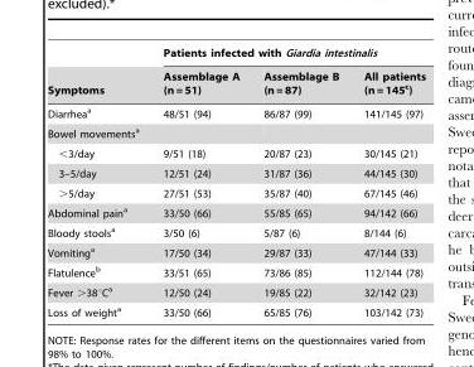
<table><thead><tr><td rowspan="2">Symptoms</td><td colspan="3">Patients infected with Giardia intestinalis</td></tr><tr><td>Assemblage A (n = 51)</td><td>Assemblage B (n = 87)</td><td>All patients (n = 145<sup>c</sup>)</td></tr></thead><tbody><tr><td>Diarrhea<sup>a</sup></td><td>48/51 (94)</td><td>86/87 (99)</td><td>141/145 (97)</td></tr><tr><td colspan="4">Bowel movements<sup>a</sup></td></tr><tr><td>&lt;3/day</td><td>9/51 (18)</td><td>20/87 (23)</td><td>30/145 (21)</td></tr><tr><td>3–5/day</td><td>12/51 (24)</td><td>31/87 (36)</td><td>44/145 (30)</td></tr><tr><td>&gt;5/day</td><td>27/51 (53)</td><td>35/87 (40)</td><td>67/145 (46)</td></tr><tr><td>Abdominal pain<sup>a</sup></td><td>33/50 (66)</td><td>55/85 (65)</td><td>94/142 (66)</td></tr><tr><td>Bloody stools<sup>a</sup></td><td>3/50 (6)</td><td>5/87 (6)</td><td>8/144 (6)</td></tr><tr><td>Vomiting<sup>a</sup></td><td>17/50 (34)</td><td>29/87 (33)</td><td>47/144 (33)</td></tr><tr><td>Flatulence<sup>b</sup></td><td>33/51 (65)</td><td>73/86 (85)</td><td>112/144 (78)</td></tr><tr><td>Fever &gt;38°C<sup>a</sup></td><td>12/50 (24)</td><td>19/85 (22)</td><td>32/142 (23)</td></tr><tr><td>Loss of weight<sup>a</sup></td><td>33/50 (66)</td><td>65/85 (76)</td><td>103/142 (73)</td></tr></tbody></table>